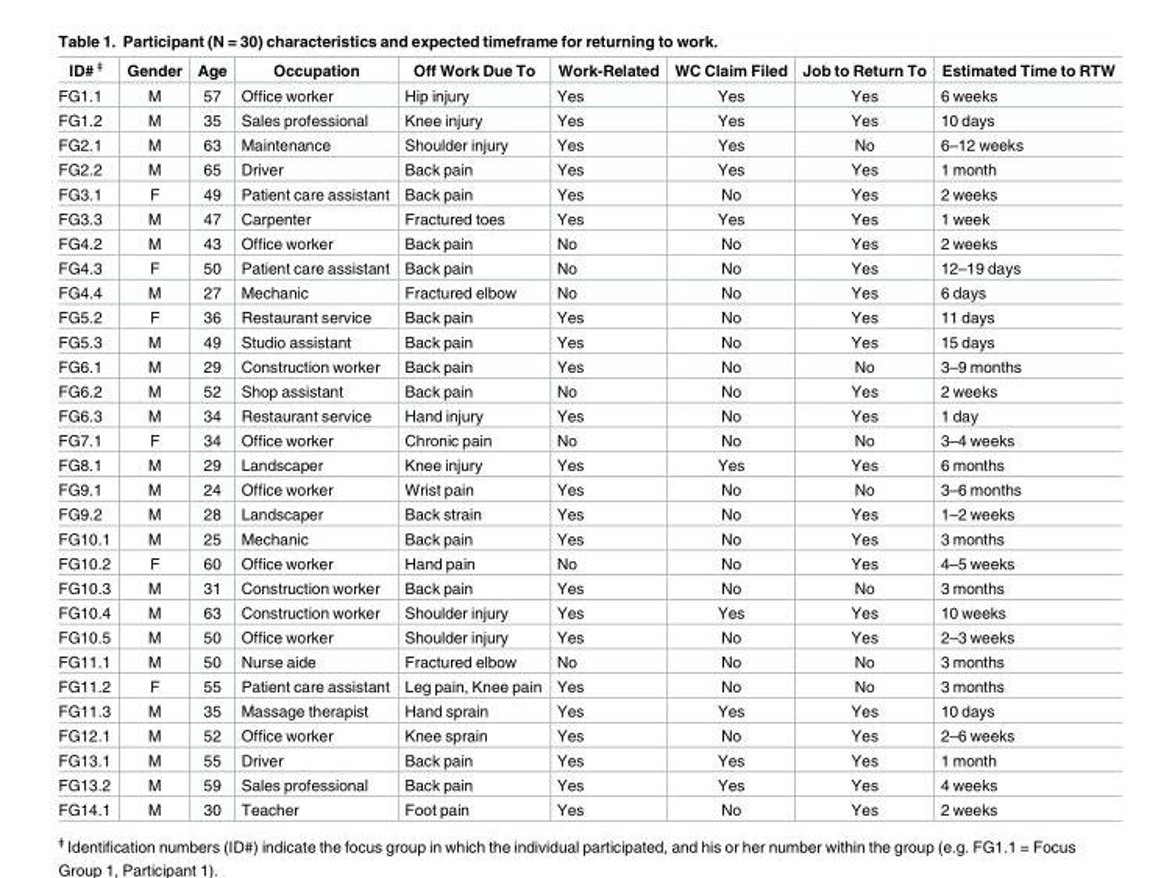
<table><thead><tr><td>ID# <sup>ǂ</sup></td><td>Gender</td><td>Age</td><td>Occupation</td><td>Off Work Due To</td><td>Work-Related</td><td>WC Claim Filed</td><td>Job to Return To</td><td>Estimated Time to RTW</td></tr></thead><tbody><tr><td>FG1.1</td><td>M</td><td>57</td><td>Office worker</td><td>Hip injury</td><td>Yes</td><td>Yes</td><td>Yes</td><td>6 weeks</td></tr><tr><td>FG1.2</td><td>M</td><td>35</td><td>Sales professional</td><td>Knee injury</td><td>Yes</td><td>Yes</td><td>Yes</td><td>10 days</td></tr><tr><td>FG2.1</td><td>M</td><td>63</td><td>Maintenance</td><td>Shoulder injury</td><td>Yes</td><td>Yes</td><td>No</td><td>6–12 weeks</td></tr><tr><td>FG2.2</td><td>M</td><td>65</td><td>Driver</td><td>Back pain</td><td>Yes</td><td>Yes</td><td>Yes</td><td>1 month</td></tr><tr><td>FG3.1</td><td>F</td><td>49</td><td>Patient care assistant</td><td>Back pain</td><td>Yes</td><td>No</td><td>Yes</td><td>2 weeks</td></tr><tr><td>FG3.3</td><td>M</td><td>47</td><td>Carpenter</td><td>Fractured toes</td><td>Yes</td><td>Yes</td><td>Yes</td><td>1 week</td></tr><tr><td>FG4.2</td><td>M</td><td>43</td><td>Office worker</td><td>Back pain</td><td>No</td><td>No</td><td>Yes</td><td>2 weeks</td></tr><tr><td>FG4.3</td><td>F</td><td>50</td><td>Patient care assistant</td><td>Back pain</td><td>No</td><td>No</td><td>Yes</td><td>12–19 days</td></tr><tr><td>FG4.4</td><td>M</td><td>27</td><td>Mechanic</td><td>Fractured elbow</td><td>No</td><td>No</td><td>Yes</td><td>6 days</td></tr><tr><td>FG5.2</td><td>F</td><td>36</td><td>Restaurant service</td><td>Back pain</td><td>Yes</td><td>No</td><td>Yes</td><td>11 days</td></tr><tr><td>FG5.3</td><td>M</td><td>49</td><td>Studio assistant</td><td>Back pain</td><td>Yes</td><td>No</td><td>Yes</td><td>15 days</td></tr><tr><td>FG6.1</td><td>M</td><td>29</td><td>Construction worker</td><td>Back pain</td><td>Yes</td><td>No</td><td>No</td><td>3–9 months</td></tr><tr><td>FG6.2</td><td>M</td><td>52</td><td>Shop assistant</td><td>Back pain</td><td>No</td><td>No</td><td>Yes</td><td>2 weeks</td></tr><tr><td>FG6.3</td><td>M</td><td>34</td><td>Restaurant service</td><td>Hand injury</td><td>Yes</td><td>No</td><td>Yes</td><td>1 day</td></tr><tr><td>FG7.1</td><td>F</td><td>34</td><td>Office worker</td><td>Chronic pain</td><td>No</td><td>No</td><td>No</td><td>3–4 weeks</td></tr><tr><td>FG8.1</td><td>M</td><td>29</td><td>Landscaper</td><td>Knee injury</td><td>Yes</td><td>Yes</td><td>Yes</td><td>6 months</td></tr><tr><td>FG9.1</td><td>M</td><td>24</td><td>Office worker</td><td>Wrist pain</td><td>Yes</td><td>No</td><td>No</td><td>3–6 months</td></tr><tr><td>FG9.2</td><td>M</td><td>28</td><td>Landscaper</td><td>Back strain</td><td>Yes</td><td>No</td><td>Yes</td><td>1–2 weeks</td></tr><tr><td>FG10.1</td><td>M</td><td>25</td><td>Mechanic</td><td>Back pain</td><td>Yes</td><td>No</td><td>Yes</td><td>3 months</td></tr><tr><td>FG10.2</td><td>F</td><td>60</td><td>Office worker</td><td>Hand pain</td><td>No</td><td>No</td><td>Yes</td><td>4–5 weeks</td></tr><tr><td>FG10.3</td><td>M</td><td>31</td><td>Construction worker</td><td>Back pain</td><td>Yes</td><td>No</td><td>No</td><td>3 months</td></tr><tr><td>FG10.4</td><td>M</td><td>63</td><td>Construction worker</td><td>Shoulder injury</td><td>Yes</td><td>Yes</td><td>Yes</td><td>10 weeks</td></tr><tr><td>FG10.5</td><td>M</td><td>50</td><td>Office worker</td><td>Shoulder injury</td><td>Yes</td><td>No</td><td>Yes</td><td>2–3 weeks</td></tr><tr><td>FG11.1</td><td>M</td><td>50</td><td>Nurse aide</td><td>Fractured elbow</td><td>No</td><td>No</td><td>No</td><td>3 months</td></tr><tr><td>FG11.2</td><td>F</td><td>55</td><td>Patient care assistant</td><td>Leg pain, Knee pain</td><td>Yes</td><td>No</td><td>No</td><td>3 months</td></tr><tr><td>FG11.3</td><td>M</td><td>35</td><td>Massage therapist</td><td>Hand sprain</td><td>Yes</td><td>Yes</td><td>Yes</td><td>10 days</td></tr><tr><td>FG12.1</td><td>M</td><td>52</td><td>Office worker</td><td>Knee sprain</td><td>Yes</td><td>No</td><td>Yes</td><td>2–6 weeks</td></tr><tr><td>FG13.1</td><td>M</td><td>55</td><td>Driver</td><td>Back pain</td><td>Yes</td><td>Yes</td><td>Yes</td><td>1 month</td></tr><tr><td>FG13.2</td><td>M</td><td>59</td><td>Sales professional</td><td>Back pain</td><td>Yes</td><td>Yes</td><td>Yes</td><td>4 weeks</td></tr><tr><td>FG14.1</td><td>M</td><td>30</td><td>Teacher</td><td>Foot pain</td><td>Yes</td><td>No</td><td>Yes</td><td>2 weeks</td></tr></tbody></table>